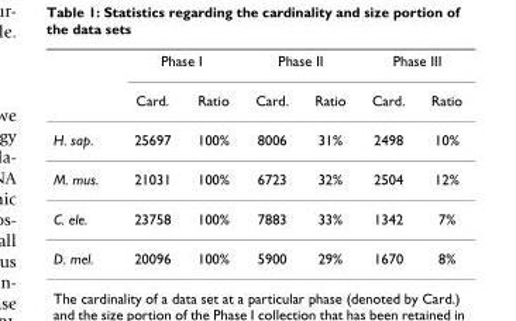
<table><thead><tr><td rowspan="2"></td><td colspan="2">Phase I</td><td colspan="2">Phase II</td><td colspan="2">Phase III</td></tr><tr><td>Card.</td><td>Ratio</td><td>Card.</td><td>Ratio</td><td>Card.</td><td>Ratio</td></tr></thead><tbody><tr><td>H. sap.</td><td>25697</td><td>100%</td><td>8006</td><td>31%</td><td>2498</td><td>10%</td></tr><tr><td>M. mus.</td><td>21031</td><td>100%</td><td>6723</td><td>32%</td><td>2504</td><td>12%</td></tr><tr><td>C. ele.</td><td>23758</td><td>100%</td><td>7883</td><td>33%</td><td>1342</td><td>7%</td></tr><tr><td>D. mel.</td><td>20096</td><td>100%</td><td>5900</td><td>29%</td><td>1670</td><td>8%</td></tr></tbody></table>